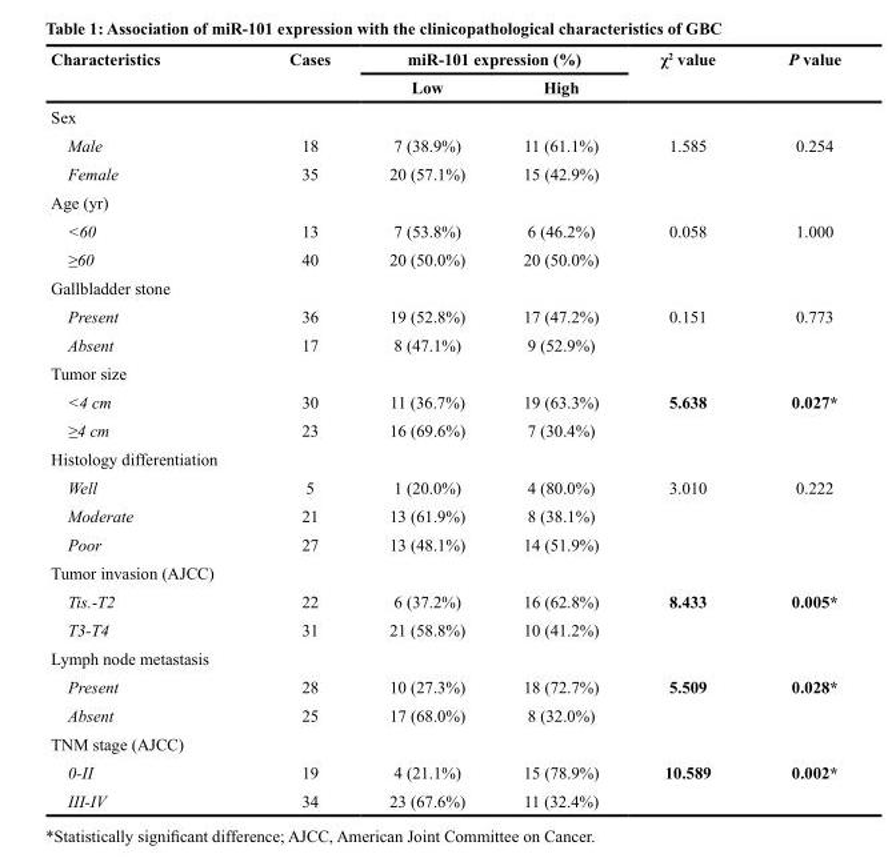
<table><thead><tr><td rowspan="2">Characteristics</td><td rowspan="2">Cases</td><td colspan="2">miR-101 expression (%)</td><td rowspan="2">χ2 value</td><td rowspan="2">P value</td></tr><tr><td>Low</td><td>High</td></tr></thead><tbody><tr><td colspan="6">Sex</td></tr><tr><td>Male</td><td>18</td><td>7 (38.9%)</td><td>11 (61.1%)</td><td>1.585</td><td>0.254</td></tr><tr><td>Female</td><td>35</td><td>20 (57.1%)</td><td>15 (42.9%)</td><td></td><td></td></tr><tr><td colspan="6">Age (yr)</td></tr><tr><td>&lt;60</td><td>13</td><td>7 (53.8%)</td><td>6 (46.2%)</td><td>0.058</td><td>1.000</td></tr><tr><td>≥60</td><td>40</td><td>20 (50.0%)</td><td>20 (50.0%)</td><td></td><td></td></tr><tr><td colspan="6">Gallbladder stone</td></tr><tr><td>Present</td><td>36</td><td>19 (52.8%)</td><td>17 (47.2%)</td><td>0.151</td><td>0.773</td></tr><tr><td>Absent</td><td>17</td><td>8 (47.1%)</td><td>9 (52.9%)</td><td></td><td></td></tr><tr><td colspan="6">Tumor size</td></tr><tr><td>&lt;4 cm</td><td>30</td><td>11 (36.7%)</td><td>19 (63.3%)</td><td>5.638</td><td>0.027*</td></tr><tr><td>≥4 cm</td><td>23</td><td>16 (69.6%)</td><td>7 (30.4%)</td><td></td><td></td></tr><tr><td colspan="6">Histology differentiation</td></tr><tr><td>Well</td><td>5</td><td>1 (20.0%)</td><td>4 (80.0%)</td><td>3.010</td><td>0.222</td></tr><tr><td>Moderate</td><td>21</td><td>13 (61.9%)</td><td>8 (38.1%)</td><td></td><td></td></tr><tr><td>Poor</td><td>27</td><td>13 (48.1%)</td><td>14 (51.9%)</td><td></td><td></td></tr><tr><td colspan="6">Tumor invasion (AJCC)</td></tr><tr><td>Tis.-T2</td><td>22</td><td>6 (37.2%)</td><td>16 (62.8%)</td><td>8.433</td><td>0.005*</td></tr><tr><td>T3-T4</td><td>31</td><td>21 (58.8%)</td><td>10 (41.2%)</td><td></td><td></td></tr><tr><td colspan="6">Lymph node metastasis</td></tr><tr><td>Present</td><td>28</td><td>10 (27.3%)</td><td>18 (72.7%)</td><td>5.509</td><td>0.028*</td></tr><tr><td>Absent</td><td>25</td><td>17 (68.0%)</td><td>8 (32.0%)</td><td></td><td></td></tr><tr><td colspan="6">TNM stage (AJCC)</td></tr><tr><td>0-II</td><td>19</td><td>4 (21.1%)</td><td>15 (78.9%)</td><td>10.589</td><td>0.002*</td></tr><tr><td>III-IV</td><td>34</td><td>23 (67.6%)</td><td>11 (32.4%)</td><td></td><td></td></tr></tbody></table>